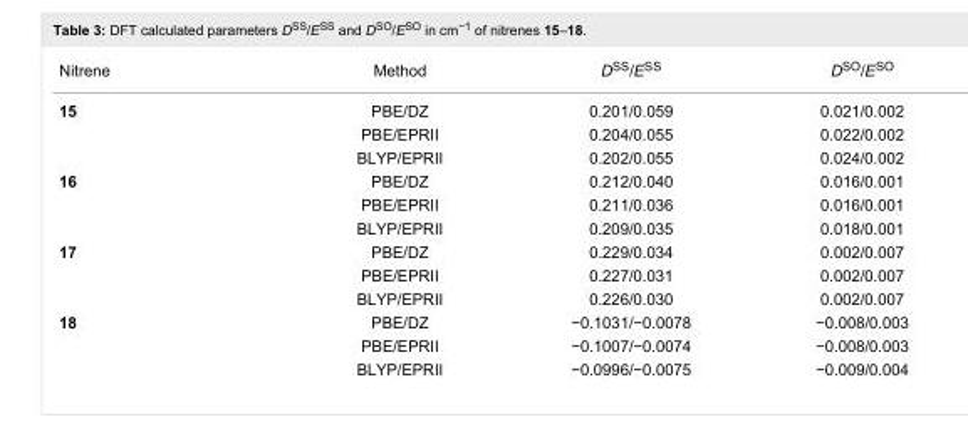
<table><tbody><tr><td>Nitrene</td><td>Method</td><td>D<sup>SS</sup>/E<sup>SS</sup></td><td>D<sup>SO</sup>/E<sup>SO</sup></td></tr><tr><td rowspan="3">15</td><td>PBE/DZ</td><td>0.201/0.059</td><td>0.021/0.002</td></tr><tr><td>PBE/EPRII</td><td>0.204/0.055</td><td>0.022/0.002</td></tr><tr><td>BLYP/EPRII</td><td>0.202/0.055</td><td>0.024/0.002</td></tr><tr><td rowspan="3">16</td><td>PBE/DZ</td><td>0.212/0.040</td><td>0.016/0.001</td></tr><tr><td>PBE/EPRII</td><td>0.211/0.036</td><td>0.016/0.001</td></tr><tr><td>BLYP/EPRII</td><td>0.209/0.035</td><td>0.018/0.001</td></tr><tr><td rowspan="3">17</td><td>PBE/DZ</td><td>0.229/0.034</td><td>0.002/0.007</td></tr><tr><td>PBE/EPRII</td><td>0.227/0.031</td><td>0.002/0.007</td></tr><tr><td>BLYP/EPRII</td><td>0.226/0.030</td><td>0.002/0.007</td></tr><tr><td rowspan="3">18</td><td>PBE/DZ</td><td>−0.1031/−0.0078</td><td>−0.008/0.003</td></tr><tr><td>PBE/EPRII</td><td>−0.1007/−0.0074</td><td>−0.008/0.003</td></tr><tr><td>BLYP/EPRII</td><td>−0.0996/−0.0075</td><td>−0.009/0.004</td></tr></tbody></table>